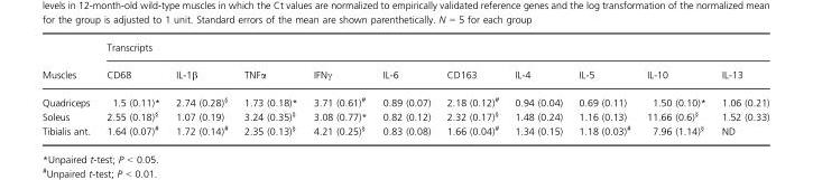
<table><thead><tr><td rowspan="2">Muscles</td><td colspan="10">Transcripts</td></tr><tr><td>CD68</td><td>IL-1β</td><td>TNFα</td><td>IFNγ</td><td>IL-6</td><td>CD163</td><td>IL-4</td><td>IL-5</td><td>IL-10</td><td>IL-13</td></tr></thead><tbody><tr><td>Quadriceps</td><td>1.5 (0.11)*</td><td>2.74 (0.28)§</td><td>1.73 (0.18)*</td><td>3.71 (0.61)#</td><td>0.89 (0.07)</td><td>2.18 (0.12)#</td><td>0.94 (0.04)</td><td>0.69 (0.11)</td><td>1.50 (0.10)*</td><td>1.06 (0.21)</td></tr><tr><td>Soleus</td><td>2.55 (0.18)§</td><td>1.07 (0.19)</td><td>3.24 (0.35)§</td><td>3.08 (0.77)*</td><td>0.82 (0.12)</td><td>2.32 (0.17)§</td><td>1.48 (0.24)</td><td>1.16 (0.13)</td><td>11.66 (0.6)§</td><td>1.52 (0.33)</td></tr><tr><td>Tibialis ant.</td><td>1.64 (0.07)#</td><td>1.72 (0.14)#</td><td>2.35 (0.13)§</td><td>4.21 (0.25)§</td><td>0.83 (0.08)</td><td>1.66 (0.04)#</td><td>1.34 (0.15)</td><td>1.18 (0.03)#</td><td>7.96 (1.14)§</td><td>ND</td></tr></tbody></table>